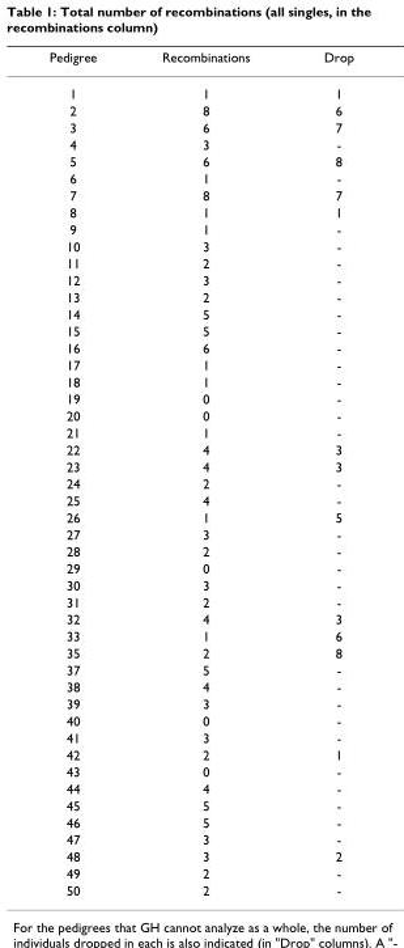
<table><thead><tr><td>Pedigree</td><td>Recombinations</td><td>Drop</td></tr></thead><tbody><tr><td>1</td><td>1</td><td>1</td></tr><tr><td>2</td><td>8</td><td>6</td></tr><tr><td>3</td><td>6</td><td>7</td></tr><tr><td>4</td><td>3</td><td>-</td></tr><tr><td>5</td><td>6</td><td>8</td></tr><tr><td>6</td><td>1</td><td>-</td></tr><tr><td>7</td><td>8</td><td>7</td></tr><tr><td>8</td><td>1</td><td>1</td></tr><tr><td>9</td><td>1</td><td>-</td></tr><tr><td>10</td><td>3</td><td>-</td></tr><tr><td>11</td><td>2</td><td>-</td></tr><tr><td>12</td><td>3</td><td>-</td></tr><tr><td>13</td><td>2</td><td>-</td></tr><tr><td>14</td><td>5</td><td>-</td></tr><tr><td>15</td><td>5</td><td>-</td></tr><tr><td>16</td><td>6</td><td>-</td></tr><tr><td>17</td><td>1</td><td>-</td></tr><tr><td>18</td><td>1</td><td>-</td></tr><tr><td>19</td><td>0</td><td>-</td></tr><tr><td>20</td><td>0</td><td>-</td></tr><tr><td>21</td><td>1</td><td>-</td></tr><tr><td>22</td><td>4</td><td>3</td></tr><tr><td>23</td><td>4</td><td>3</td></tr><tr><td>24</td><td>2</td><td>-</td></tr><tr><td>25</td><td>4</td><td>-</td></tr><tr><td>26</td><td>1</td><td>5</td></tr><tr><td>27</td><td>3</td><td>-</td></tr><tr><td>28</td><td>2</td><td>-</td></tr><tr><td>29</td><td>0</td><td>-</td></tr><tr><td>30</td><td>3</td><td>-</td></tr><tr><td>31</td><td>2</td><td>-</td></tr><tr><td>32</td><td>4</td><td>3</td></tr><tr><td>33</td><td>1</td><td>6</td></tr><tr><td>35</td><td>2</td><td>8</td></tr><tr><td>37</td><td>5</td><td>-</td></tr><tr><td>38</td><td>4</td><td>-</td></tr><tr><td>39</td><td>3</td><td>-</td></tr><tr><td>40</td><td>0</td><td>-</td></tr><tr><td>41</td><td>3</td><td>-</td></tr><tr><td>42</td><td>2</td><td>1</td></tr><tr><td>43</td><td>0</td><td>-</td></tr><tr><td>44</td><td>4</td><td>-</td></tr><tr><td>45</td><td>5</td><td>-</td></tr><tr><td>46</td><td>5</td><td>-</td></tr><tr><td>47</td><td>3</td><td>-</td></tr><tr><td>48</td><td>3</td><td>2</td></tr><tr><td>49</td><td>2</td><td>-</td></tr><tr><td>50</td><td>2</td><td>-</td></tr></tbody></table>